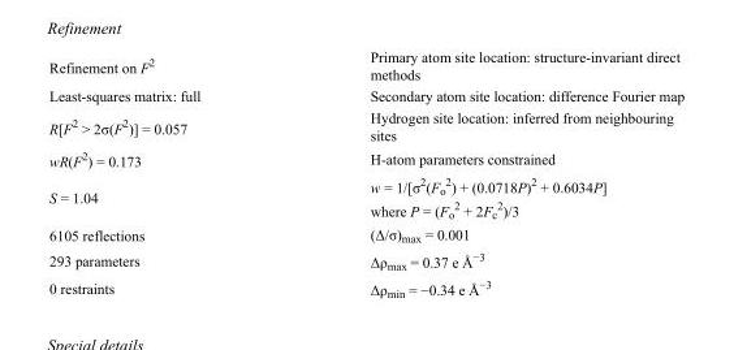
<table><tbody><tr><td>Refinement on F<sup>2</sup></td><td>Primary atom site location: structure-invariant direct methods</td></tr><tr><td>Least-squares matrix: full</td><td>Secondary atom site location: difference Fourier map</td></tr><tr><td>R[F<sup>2</sup> &gt; 2σ(F<sup>2</sup>)] = 0.057</td><td>Hydrogen site location: inferred from neighbouring sites</td></tr><tr><td>wR(F<sup>2</sup>) = 0.173</td><td>H-atom parameters constrained</td></tr><tr><td>S = 1.04</td><td>w = 1/[σ<sup>2</sup>(F<sub>o</sub> <sup>2</sup>) + (0.0718P)<sup>2</sup> + 0.6034P] where P = (F<sub>o</sub> <sup>2</sup> + 2F<sub>c</sub> <sup>2</sup>)/3</td></tr><tr><td>6105 reflections</td><td>(Δ/σ)<sub>max</sub> = 0.001</td></tr><tr><td>293 parameters</td><td>Δρ<sub>max</sub> = 0.37 e Å<sup>−3</sup></td></tr><tr><td>0 restraints</td><td>Δρ<sub>min</sub> = −0.34 e Å<sup>−3</sup></td></tr></tbody></table>